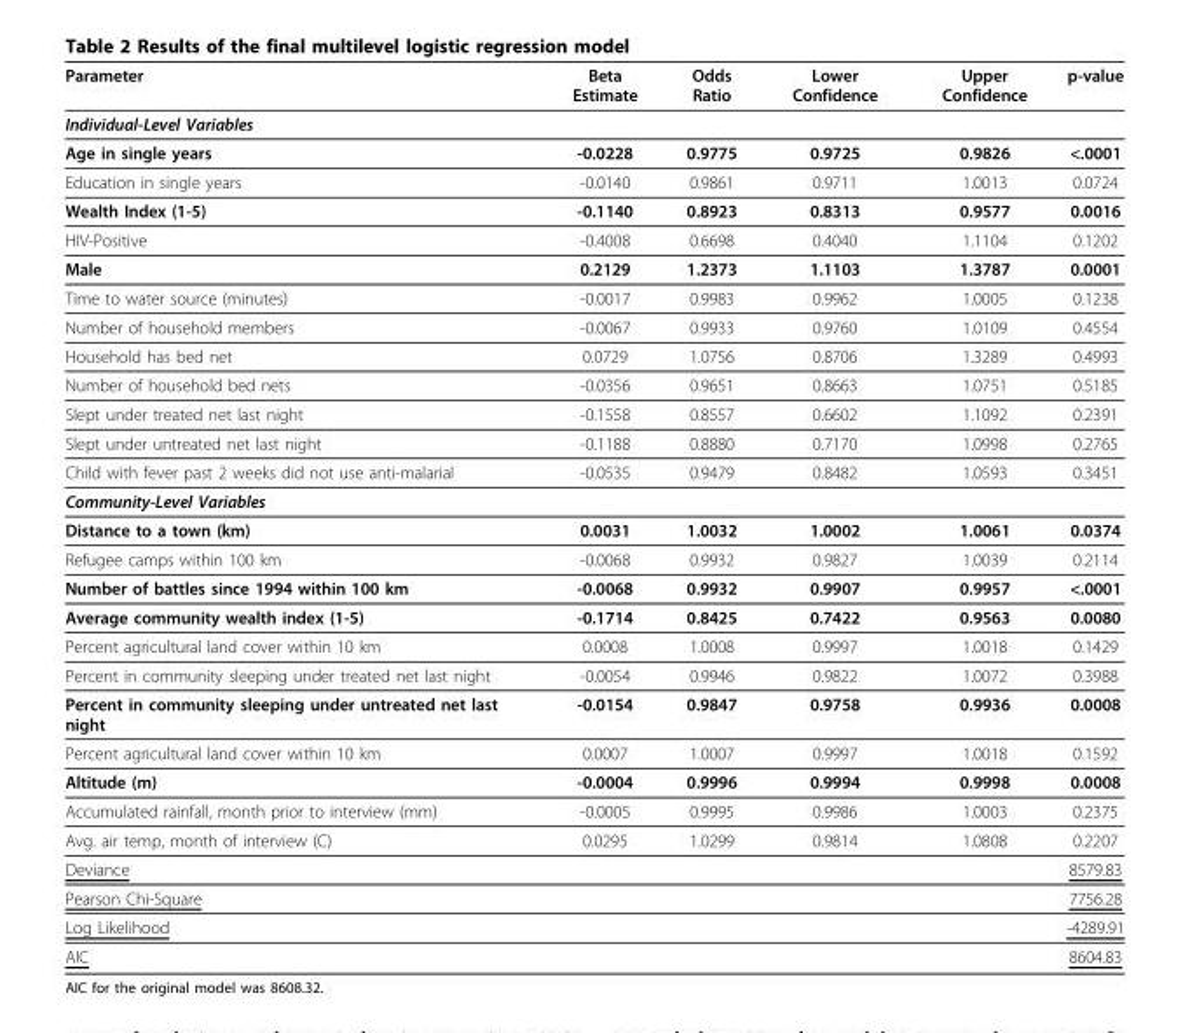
<table><thead><tr><td>Parameter</td><td>Beta Estimate</td><td>Odds Ratio</td><td>Lower Confidence</td><td>Upper Confidence</td><td>p-value</td></tr></thead><tbody><tr><td colspan="6">Individual-Level Variables</td></tr><tr><td>Age in single years</td><td>-0.0228</td><td>0.9775</td><td>0.9725</td><td>0.9826</td><td>&lt;.0001</td></tr><tr><td>Education in single years</td><td>-0.0140</td><td>0.9861</td><td>0.9711</td><td>1.0013</td><td>0.0724</td></tr><tr><td>Wealth Index (1-5)</td><td>-0.1140</td><td>0.8923</td><td>0.8313</td><td>0.9577</td><td>0.0016</td></tr><tr><td>HIV-Positive</td><td>-0.4008</td><td>0.6698</td><td>0.4040</td><td>1.1104</td><td>0.1202</td></tr><tr><td>Male</td><td>0.2129</td><td>1.2373</td><td>1.1103</td><td>1.3787</td><td>0.0001</td></tr><tr><td>Time to water source (minutes)</td><td>-0.0017</td><td>0.9983</td><td>0.9962</td><td>1.0005</td><td>0.1238</td></tr><tr><td>Number of household members</td><td>-0.0067</td><td>0.9933</td><td>0.9760</td><td>1.0109</td><td>0.4554</td></tr><tr><td>Household has bed net</td><td>0.0729</td><td>1.0756</td><td>0.8706</td><td>1.3289</td><td>0.4993</td></tr><tr><td>Number of household bed nets</td><td>-0.0356</td><td>0.9651</td><td>0.8663</td><td>1.0751</td><td>0.5185</td></tr><tr><td>Slept under treated net last night</td><td>-0.1558</td><td>0.8557</td><td>0.6602</td><td>1.1092</td><td>0.2391</td></tr><tr><td>Slept under untreated net last night</td><td>-0.1188</td><td>0.8880</td><td>0.7170</td><td>1.0998</td><td>0.2765</td></tr><tr><td>Child with fever past 2 weeks did not use anti-malarial</td><td>-0.0535</td><td>0.9479</td><td>0.8482</td><td>1.0593</td><td>0.3451</td></tr><tr><td colspan="6">Community-Level Variables</td></tr><tr><td>Distance to a town (km)</td><td>0.0031</td><td>1.0032</td><td>1.0002</td><td>1.0061</td><td>0.0374</td></tr><tr><td>Refugee camps within 100 km</td><td>-0.0068</td><td>0.9932</td><td>0.9827</td><td>1.0039</td><td>0.2114</td></tr><tr><td>Number of battles since 1994 within 100 km</td><td>-0.0068</td><td>0.9932</td><td>0.9907</td><td>0.9957</td><td>&lt;.0001</td></tr><tr><td>Average community wealth index (1-5)</td><td>-0.1714</td><td>0.8425</td><td>0.7422</td><td>0.9563</td><td>0.0080</td></tr><tr><td>Percent agricultural land cover within 10 km</td><td>0.0008</td><td>1.0008</td><td>0.9997</td><td>1.0018</td><td>0.1429</td></tr><tr><td>Percent in community sleeping under treated net last night</td><td>-0.0054</td><td>0.9946</td><td>0.9822</td><td>1.0072</td><td>0.3988</td></tr><tr><td>Percent in community sleeping under untreated net last night</td><td>-0.0154</td><td>0.9847</td><td>0.9758</td><td>0.9936</td><td>0.0008</td></tr><tr><td>Percent agricultural land cover within 10 km</td><td>0.0007</td><td>1.0007</td><td>0.9997</td><td>1.0018</td><td>0.1592</td></tr><tr><td>Altitude (m)</td><td>-0.0004</td><td>0.9996</td><td>0.9994</td><td>0.9998</td><td>0.0008</td></tr><tr><td>Accumulated rainfall, month prior to interview (mm)</td><td>-0.0005</td><td>0.9995</td><td>0.9986</td><td>1.0003</td><td>0.2375</td></tr><tr><td>Avg. air temp, month of interview (C)</td><td>0.0295</td><td>1.0299</td><td>0.9814</td><td>1.0808</td><td>0.2207</td></tr><tr><td>Deviance</td><td></td><td></td><td></td><td></td><td>8579.83</td></tr><tr><td>Pearson Chi-Square</td><td></td><td></td><td></td><td></td><td>7756.28</td></tr><tr><td>Log Likelihood</td><td></td><td></td><td></td><td></td><td>-4289.91</td></tr><tr><td>AIC</td><td></td><td></td><td></td><td></td><td>8604.83</td></tr></tbody></table>